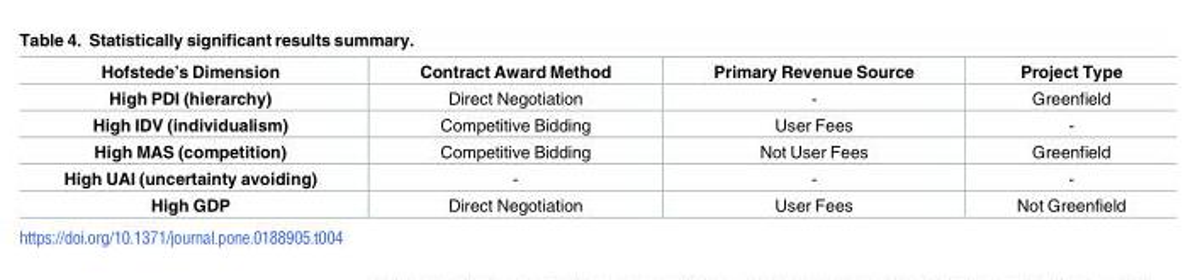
<table><thead><tr><td>Hofstede’s Dimension</td><td>Contract Award Method</td><td>Primary Revenue Source</td><td>Project Type</td></tr></thead><tbody><tr><td>High PDI (hierarchy)</td><td>Direct Negotiation</td><td>-</td><td>Greenfield</td></tr><tr><td>High IDV (individualism)</td><td>Competitive Bidding</td><td>User Fees</td><td>-</td></tr><tr><td>High MAS (competition)</td><td>Competitive Bidding</td><td>Not User Fees</td><td>Greenfield</td></tr><tr><td>High UAI (uncertainty avoiding)</td><td>-</td><td>-</td><td>-</td></tr><tr><td>High GDP</td><td>Direct Negotiation</td><td>User Fees</td><td>Not Greenfield</td></tr></tbody></table>